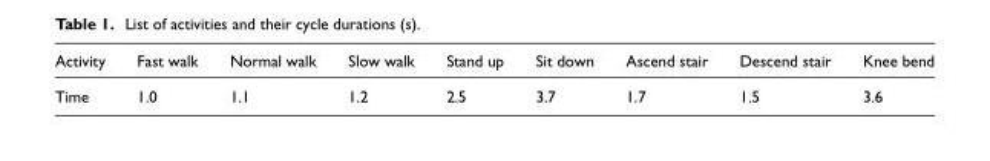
<table><thead><tr><td>Activity</td><td>Fast walk</td><td>Normal walk</td><td>Slow walk</td><td>Stand up</td><td>Sit down</td><td>Ascend stair</td><td>Descend stair</td><td>Knee bend</td></tr></thead><tbody><tr><td>Time</td><td>1.0</td><td>1.1</td><td>1.2</td><td>2.5</td><td>3.7</td><td>1.7</td><td>1.5</td><td>3.6</td></tr></tbody></table>